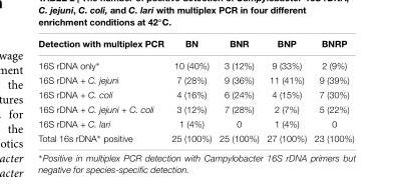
<table><thead><tr><td>Detection with multiplex PCR</td><td>BN</td><td>BNR</td><td>BNP</td><td>BNRP</td></tr></thead><tbody><tr><td>16S rDNA only∗</td><td>10 (40%)</td><td>3 (12%)</td><td>9 (33%)</td><td>2 (9%)</td></tr><tr><td>16S rDNA + C. jejuni</td><td>7 (28%)</td><td>9 (36%)</td><td>11 (41%)</td><td>9 (39%)</td></tr><tr><td>16S rDNA + C. coli</td><td>4 (16%)</td><td>6 (24%)</td><td>4 (15%)</td><td>7 (30%)</td></tr><tr><td>16S rDNA + C. jejuni + C. coli</td><td>3 (12%)</td><td>7 (28%)</td><td>2 (7%)</td><td>5 (22%)</td></tr><tr><td>16S rDNA + C. lari</td><td>1 (4%)</td><td>0</td><td>1 (4%)</td><td>0</td></tr><tr><td>Total 16s rDNA∗ positive</td><td>25 (100%)</td><td>25 (100%)</td><td>27 (100%)</td><td>23 (100%)</td></tr></tbody></table>